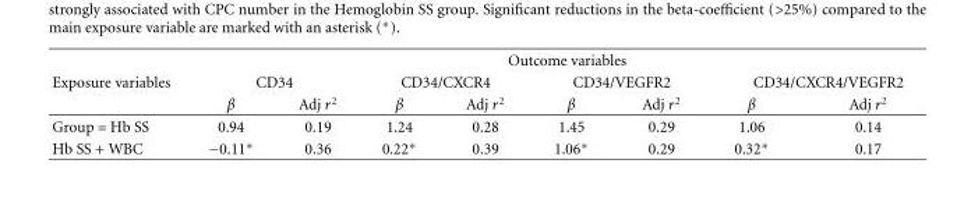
<table><thead><tr><td rowspan="3">Exposure variables</td><td colspan="8">Outcome variables</td></tr><tr><td colspan="2">CD34</td><td colspan="2">CD34/CXCR4</td><td colspan="2">CD34/VEGFR2</td><td colspan="2">CD34/CXCR4/VEGFR2</td></tr><tr><td>β</td><td>Adj r<sup>2</sup></td><td>β</td><td>Adj r<sup>2</sup></td><td>β</td><td>Adj r<sup>2</sup></td><td>β</td><td>Adj r<sup>2</sup></td></tr></thead><tbody><tr><td>Group = Hb SS</td><td>0.94</td><td>0.19</td><td>1.24</td><td>0.28</td><td>1.45</td><td>0.29</td><td>1.06</td><td>0.14</td></tr><tr><td>Hb SS + WBC</td><td>−0.11∗</td><td>0.36</td><td>0.22∗</td><td>0.39</td><td>1.06∗</td><td>0.29</td><td>0.32∗</td><td>0.17</td></tr></tbody></table>